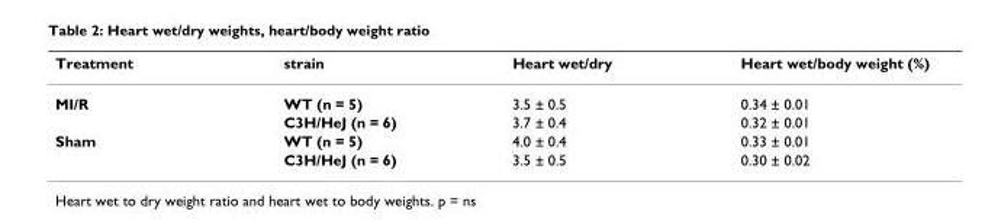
<table><thead><tr><td>Treatment</td><td>strain</td><td>Heart wet/dry</td><td>Heart wet/body weight (%)</td></tr></thead><tbody><tr><td rowspan="2">MI/R</td><td>WT (n = 5)</td><td>3.5 ± 0.5</td><td>0.34 ± 0.01</td></tr><tr><td>C3H/HeJ (n = 6)</td><td>3.7 ± 0.4</td><td>0.32 ± 0.01</td></tr><tr><td rowspan="2">Sham</td><td>WT (n = 5)</td><td>4.0 ± 0.4</td><td>0.33 ± 0.01</td></tr><tr><td>C3H/HeJ (n = 6)</td><td>3.5 ± 0.5</td><td>0.30 ± 0.02</td></tr></tbody></table>